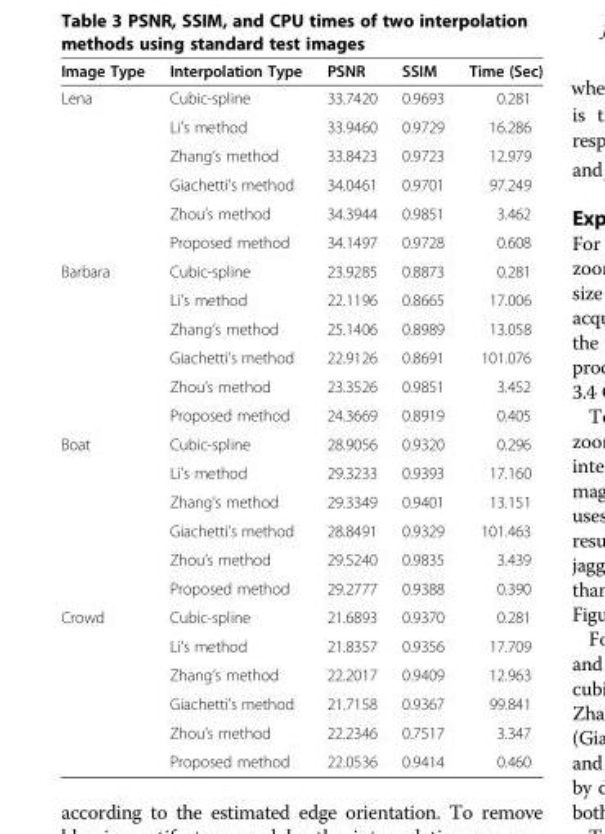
<table><thead><tr><td>Image Type</td><td>Interpolation Type</td><td>PSNR</td><td>SSIM</td><td>Time (Sec)</td></tr></thead><tbody><tr><td rowspan="6">Lena</td><td>Cubic-spline</td><td>33.7420</td><td>0.9693</td><td>0.281</td></tr><tr><td>Li’s method</td><td>33.9460</td><td>0.9729</td><td>16.286</td></tr><tr><td>Zhang’s method</td><td>33.8423</td><td>0.9723</td><td>12.979</td></tr><tr><td>Giachetti’s method</td><td>34.0461</td><td>0.9701</td><td>97.249</td></tr><tr><td>Zhou’s method</td><td>34.3944</td><td>0.9851</td><td>3.462</td></tr><tr><td>Proposed method</td><td>34.1497</td><td>0.9728</td><td>0.608</td></tr><tr><td rowspan="6">Barbara</td><td>Cubic-spline</td><td>23.9285</td><td>0.8873</td><td>0.281</td></tr><tr><td>Li’s method</td><td>22.1196</td><td>0.8665</td><td>17.006</td></tr><tr><td>Zhang’s method</td><td>25.1406</td><td>0.8989</td><td>13.058</td></tr><tr><td>Giachetti’s method</td><td>22.9126</td><td>0.8691</td><td>101.076</td></tr><tr><td>Zhou’s method</td><td>23.3526</td><td>0.9851</td><td>3.452</td></tr><tr><td>Proposed method</td><td>24.3669</td><td>0.8919</td><td>0.405</td></tr><tr><td rowspan="6">Boat</td><td>Cubic-spline</td><td>28.9056</td><td>0.9320</td><td>0.296</td></tr><tr><td>Li’s method</td><td>29.3233</td><td>0.9393</td><td>17.160</td></tr><tr><td>Zhang’s method</td><td>29.3349</td><td>0.9401</td><td>13.151</td></tr><tr><td>Giachetti’s method</td><td>28.8491</td><td>0.9329</td><td>101.463</td></tr><tr><td>Zhou’s method</td><td>29.5240</td><td>0.9835</td><td>3.439</td></tr><tr><td>Proposed method</td><td>29.2777</td><td>0.9388</td><td>0.390</td></tr><tr><td rowspan="6">Crowd</td><td>Cubic-spline</td><td>21.6893</td><td>0.9370</td><td>0.281</td></tr><tr><td>Li’s method</td><td>21.8357</td><td>0.9356</td><td>17.709</td></tr><tr><td>Zhang’s method</td><td>22.2017</td><td>0.9409</td><td>12.963</td></tr><tr><td>Giachetti’s method</td><td>21.7158</td><td>0.9367</td><td>99.841</td></tr><tr><td>Zhou’s method</td><td>22.2346</td><td>0.7517</td><td>3.347</td></tr><tr><td>Proposed method</td><td>22.0536</td><td>0.9414</td><td>0.460</td></tr></tbody></table>